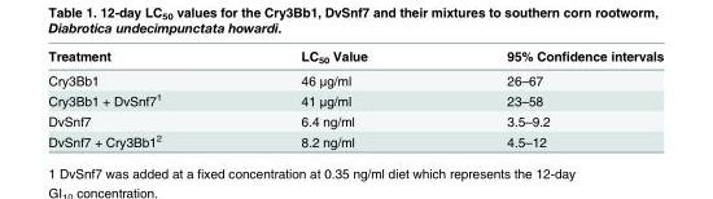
<table><thead><tr><td>Treatment</td><td>LC<sub>50</sub> Value</td><td>95% Confidence intervals</td></tr></thead><tbody><tr><td>Cry3Bb1</td><td>46 μg/ml</td><td>26–67</td></tr><tr><td>Cry3Bb1 + DvSnf7<sup>1</sup></td><td>41 μg/ml</td><td>23–58</td></tr><tr><td>DvSnf7</td><td>6.4 ng/ml</td><td>3.5–9.2</td></tr><tr><td>DvSnf7 + Cry3Bb1<sup>2</sup></td><td>8.2 ng/ml</td><td>4.5–12</td></tr></tbody></table>